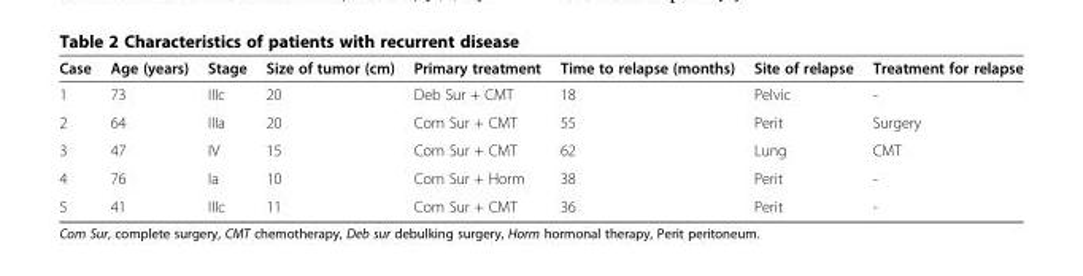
<table><thead><tr><td>Case</td><td>Age (years)</td><td>Stage</td><td>Size of tumor (cm)</td><td>Primary treatment</td><td>Time to relapse (months)</td><td>Site of relapse</td><td>Treatment for relapse</td></tr></thead><tbody><tr><td>1</td><td>73</td><td>IIIc</td><td>20</td><td>Deb Sur + CMT</td><td>18</td><td>Pelvic</td><td>-</td></tr><tr><td>2</td><td>64</td><td>IIIa</td><td>20</td><td>Com Sur + CMT</td><td>55</td><td>Perit</td><td>Surgery</td></tr><tr><td>3</td><td>47</td><td>IV</td><td>15</td><td>Com Sur + CMT</td><td>62</td><td>Lung</td><td>CMT</td></tr><tr><td>4</td><td>76</td><td>Ia</td><td>10</td><td>Com Sur + Horm</td><td>38</td><td>Perit</td><td>-</td></tr><tr><td>5</td><td>41</td><td>IIIc</td><td>11</td><td>Com Sur + CMT</td><td>36</td><td>Perit</td><td>-</td></tr></tbody></table>